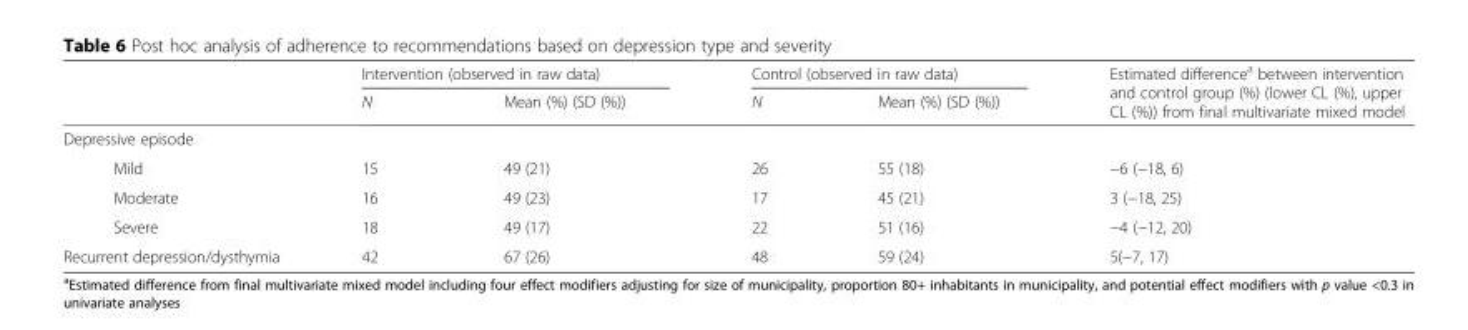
<table><thead><tr><td rowspan="2"></td><td colspan="2">Intervention (observed in raw data)</td><td colspan="2">Control (observed in raw data)</td><td rowspan="2">Estimated difference<sup>a</sup> between intervention and control group (%) (lower CL (%), upper CL (%)) from final multivariate mixed model</td></tr><tr><td>N</td><td>Mean (%) (SD (%))</td><td>N</td><td>Mean (%) (SD (%))</td></tr></thead><tbody><tr><td colspan="6">Depressive episode</td></tr><tr><td>Mild</td><td>15</td><td>49 (21)</td><td>26</td><td>55 (18)</td><td>−6 (−18, 6)</td></tr><tr><td>Moderate</td><td>16</td><td>49 (23)</td><td>17</td><td>45 (21)</td><td>3 (−18, 25)</td></tr><tr><td>Severe</td><td>18</td><td>49 (17)</td><td>22</td><td>51 (16)</td><td>−4 (−12, 20)</td></tr><tr><td>Recurrent depression/dysthymia</td><td>42</td><td>67 (26)</td><td>48</td><td>59 (24)</td><td>5(−7, 17)</td></tr></tbody></table>